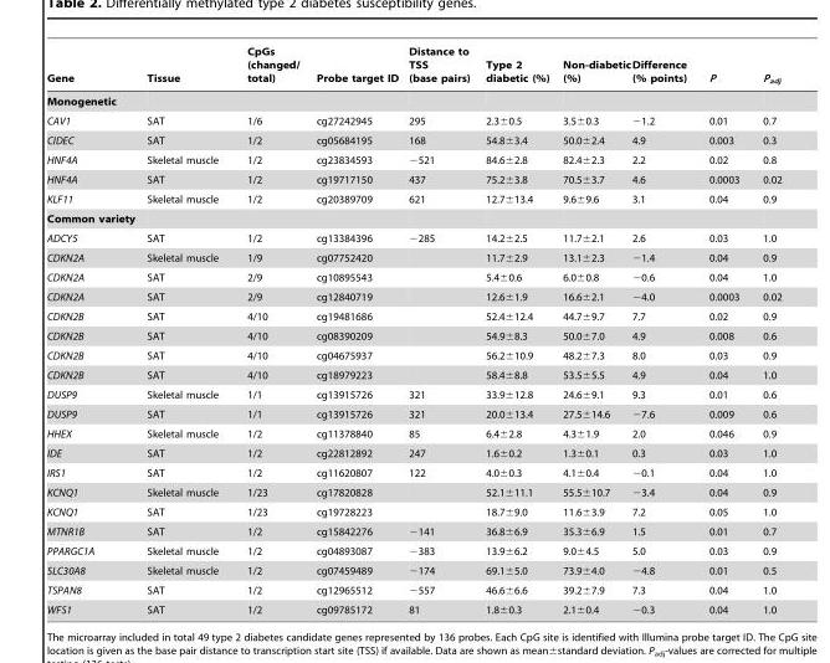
<table><thead><tr><td>Gene</td><td>Tissue</td><td>CpGs (changed/ total)</td><td>Probe target ID</td><td>Distance to TSS (base pairs)</td><td>Type 2 diabetic (%)</td><td>Non-diabetic (%)</td><td>Difference (% points)</td><td>P</td><td>P<sub>adj</sub></td></tr></thead><tbody><tr><td colspan="10">Monogenetic</td></tr><tr><td>CAV1</td><td>SAT</td><td>1/6</td><td>cg27242945</td><td>295</td><td>2.3±0.5</td><td>3.5±0.3</td><td>−1.2</td><td>0.01</td><td>0.7</td></tr><tr><td>CIDEC</td><td>SAT</td><td>1/2</td><td>cg05684195</td><td>168</td><td>54.8±3.4</td><td>50.0±2.4</td><td>4.9</td><td>0.003</td><td>0.3</td></tr><tr><td>HNF4A</td><td>Skeletal muscle</td><td>1/2</td><td>cg23834593</td><td>−521</td><td>84.6±2.8</td><td>82.4±2.3</td><td>2.2</td><td>0.02</td><td>0.8</td></tr><tr><td>HNF4A</td><td>SAT</td><td>1/2</td><td>cg19717150</td><td>437</td><td>75.2±3.8</td><td>70.5±3.7</td><td>4.6</td><td>0.0003</td><td>0.02</td></tr><tr><td>KLF11</td><td>Skeletal muscle</td><td>1/2</td><td>cg20389709</td><td>621</td><td>12.7±13.4</td><td>9.6±9.6</td><td>3.1</td><td>0.04</td><td>0.9</td></tr><tr><td colspan="10">Common variety</td></tr><tr><td>ADCY5</td><td>SAT</td><td>1/2</td><td>cg13384396</td><td>−285</td><td>14.2±2.5</td><td>11.7±2.1</td><td>2.6</td><td>0.03</td><td>1.0</td></tr><tr><td>CDKN2A</td><td>Skeletal muscle</td><td>1/9</td><td>cg07752420</td><td></td><td>11.7±2.9</td><td>13.1±2.3</td><td>−1.4</td><td>0.04</td><td>0.9</td></tr><tr><td>CDKN2A</td><td>SAT</td><td>2/9</td><td>cg10895543</td><td></td><td>5.4±0.6</td><td>6.0±0.8</td><td>−0.6</td><td>0.04</td><td>1.0</td></tr><tr><td>CDKN2A</td><td>SAT</td><td>2/9</td><td>cg12840719</td><td></td><td>12.6±1.9</td><td>16.6±2.1</td><td>−4.0</td><td>0.0003</td><td>0.02</td></tr><tr><td>CDKN2B</td><td>SAT</td><td>4/10</td><td>cg19481686</td><td></td><td>52.4±12.4</td><td>44.7±9.7</td><td>7.7</td><td>0.02</td><td>0.9</td></tr><tr><td>CDKN2B</td><td>SAT</td><td>4/10</td><td>cg08390209</td><td></td><td>54.9±8.3</td><td>50.0±7.0</td><td>4.9</td><td>0.008</td><td>0.6</td></tr><tr><td>CDKN2B</td><td>SAT</td><td>4/10</td><td>cg04675937</td><td></td><td>56.2±10.9</td><td>48.2±7.3</td><td>8.0</td><td>0.03</td><td>0.9</td></tr><tr><td>CDKN2B</td><td>SAT</td><td>4/10</td><td>cg18979223</td><td></td><td>58.4±8.8</td><td>53.5±5.5</td><td>4.9</td><td>0.04</td><td>1.0</td></tr><tr><td>DUSP9</td><td>Skeletal muscle</td><td>1/1</td><td>cg13915726</td><td>321</td><td>33.9±12.8</td><td>24.6±9.1</td><td>9.3</td><td>0.01</td><td>0.6</td></tr><tr><td>DUSP9</td><td>SAT</td><td>1/1</td><td>cg13915726</td><td>321</td><td>20.0±13.4</td><td>27.5±14.6</td><td>−7.6</td><td>0.009</td><td>0.6</td></tr><tr><td>HHEX</td><td>Skeletal muscle</td><td>1/2</td><td>cg11378840</td><td>85</td><td>6.4±2.8</td><td>4.3±1.9</td><td>2.0</td><td>0.046</td><td>0.9</td></tr><tr><td>IDE</td><td>SAT</td><td>1/2</td><td>cg22812892</td><td>247</td><td>1.6±0.2</td><td>1.3±0.1</td><td>0.3</td><td>0.03</td><td>1.0</td></tr><tr><td>IRS1</td><td>SAT</td><td>1/2</td><td>cg11620807</td><td>122</td><td>4.0±0.3</td><td>4.1±0.4</td><td>−0.1</td><td>0.04</td><td>1.0</td></tr><tr><td>KCNQ1</td><td>Skeletal muscle</td><td>1/23</td><td>cg17820828</td><td></td><td>52.1±11.1</td><td>55.5±10.7</td><td>−3.4</td><td>0.04</td><td>0.9</td></tr><tr><td>KCNQ1</td><td>SAT</td><td>1/23</td><td>cg19728223</td><td></td><td>18.7±9.0</td><td>11.6±3.9</td><td>7.2</td><td>0.05</td><td>1.0</td></tr><tr><td>MTNR1B</td><td>SAT</td><td>1/2</td><td>cg15842276</td><td>−141</td><td>36.8±6.9</td><td>35.3±6.9</td><td>1.5</td><td>0.01</td><td>0.7</td></tr><tr><td>PPARGC1A</td><td>Skeletal muscle</td><td>1/2</td><td>cg04893087</td><td>−383</td><td>13.9±6.2</td><td>9.0±4.5</td><td>5.0</td><td>0.03</td><td>0.9</td></tr><tr><td>SLC30A8</td><td>Skeletal muscle</td><td>1/2</td><td>cg07459489</td><td>−174</td><td>69.1±5.0</td><td>73.9±4.0</td><td>−4.8</td><td>0.01</td><td>0.5</td></tr><tr><td>TSPAN8</td><td>SAT</td><td>1/2</td><td>cg12965512</td><td>−557</td><td>46.6±6.6</td><td>39.2±7.9</td><td>7.3</td><td>0.04</td><td>1.0</td></tr><tr><td>WFS1</td><td>SAT</td><td>1/2</td><td>cg09785172</td><td>81</td><td>1.8±0.3</td><td>2.1±0.4</td><td>−0.3</td><td>0.04</td><td>1.0</td></tr></tbody></table>